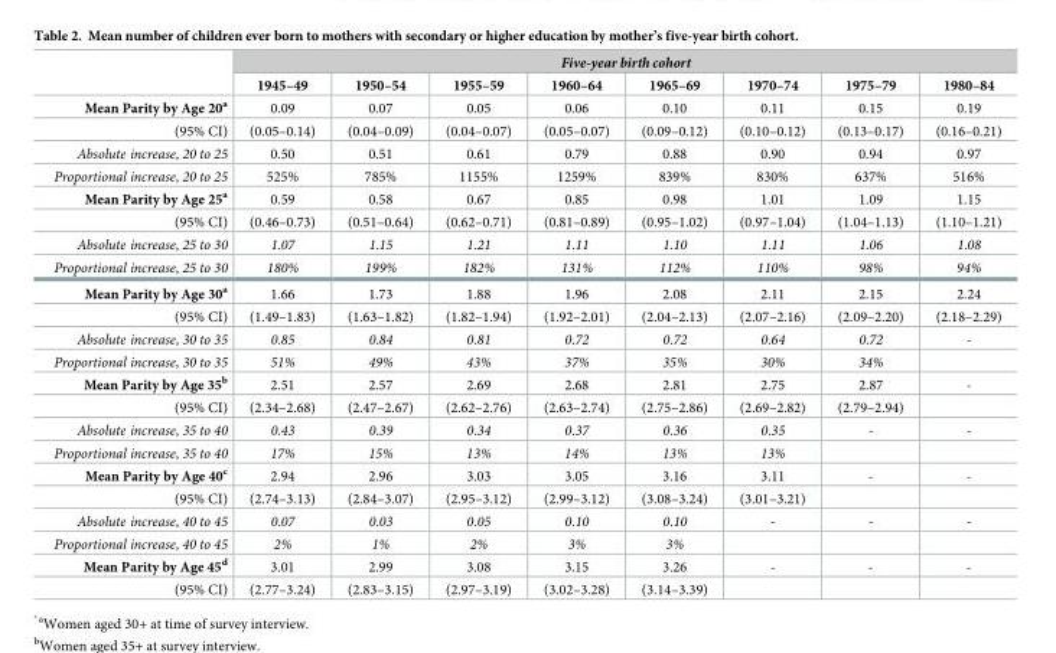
<table><thead><tr><td rowspan="2"></td><td colspan="8">Five-year birth cohort</td></tr><tr><td>1945–49</td><td>1950–54</td><td>1955–59</td><td>1960–64</td><td>1965–69</td><td>1970–74</td><td>1975–79</td><td>1980–84</td></tr></thead><tbody><tr><td>Mean Parity by Age 20<sup>a</sup></td><td>0.09</td><td>0.07</td><td>0.05</td><td>0.06</td><td>0.10</td><td>0.11</td><td>0.15</td><td>0.19</td></tr><tr><td>(95% CI)</td><td>(0.05–0.14)</td><td>(0.04–0.09)</td><td>(0.04–0.07)</td><td>(0.05–0.07)</td><td>(0.09–0.12)</td><td>(0.10–0.12)</td><td>(0.13–0.17)</td><td>(0.16–0.21)</td></tr><tr><td>Absolute increase, 20 to 25</td><td>0.50</td><td>0.51</td><td>0.61</td><td>0.79</td><td>0.88</td><td>0.90</td><td>0.94</td><td>0.97</td></tr><tr><td>Proportional increase, 20 to 25</td><td>525%</td><td>785%</td><td>1155%</td><td>1259%</td><td>839%</td><td>830%</td><td>637%</td><td>516%</td></tr><tr><td>Mean Parity by Age 25<sup>a</sup></td><td>0.59</td><td>0.58</td><td>0.67</td><td>0.85</td><td>0.98</td><td>1.01</td><td>1.09</td><td>1.15</td></tr><tr><td>(95% CI)</td><td>(0.46–0.73)</td><td>(0.51–0.64)</td><td>(0.62–0.71)</td><td>(0.81–0.89)</td><td>(0.95–1.02)</td><td>(0.97–1.04)</td><td>(1.04–1.13)</td><td>(1.10–1.21)</td></tr><tr><td>Absolute increase, 25 to 30</td><td>1.07</td><td>1.15</td><td>1.21</td><td>1.11</td><td>1.10</td><td>1.11</td><td>1.06</td><td>1.08</td></tr><tr><td>Proportional increase, 25 to 30</td><td>180%</td><td>199%</td><td>182%</td><td>131%</td><td>112%</td><td>110%</td><td>98%</td><td>94%</td></tr><tr><td>Mean Parity by Age 30<sup>a</sup></td><td>1.66</td><td>1.73</td><td>1.88</td><td>1.96</td><td>2.08</td><td>2.11</td><td>2.15</td><td>2.24</td></tr><tr><td>(95% CI)</td><td>(1.49–1.83)</td><td>(1.63–1.82)</td><td>(1.82–1.94)</td><td>(1.92–2.01)</td><td>(2.04–2.13)</td><td>(2.07–2.16)</td><td>(2.09–2.20)</td><td>(2.18–2.29)</td></tr><tr><td>Absolute increase, 30 to 35</td><td>0.85</td><td>0.84</td><td>0.81</td><td>0.72</td><td>0.72</td><td>0.64</td><td>0.72</td><td>-</td></tr><tr><td>Proportional increase, 30 to 35</td><td>51%</td><td>49%</td><td>43%</td><td>37%</td><td>35%</td><td>30%</td><td>34%</td><td></td></tr><tr><td>Mean Parity by Age 35<sup>b</sup></td><td>2.51</td><td>2.57</td><td>2.69</td><td>2.68</td><td>2.81</td><td>2.75</td><td>2.87</td><td>-</td></tr><tr><td>(95% CI)</td><td>(2.34–2.68)</td><td>(2.47–2.67)</td><td>(2.62–2.76)</td><td>(2.63–2.74)</td><td>(2.75–2.86)</td><td>(2.69–2.82)</td><td>(2.79–2.94)</td><td></td></tr><tr><td>Absolute increase, 35 to 40</td><td>0.43</td><td>0.39</td><td>0.34</td><td>0.37</td><td>0.36</td><td>0.35</td><td>-</td><td>-</td></tr><tr><td>Proportional increase, 35 to 40</td><td>17%</td><td>15%</td><td>13%</td><td>14%</td><td>13%</td><td>13%</td><td></td><td></td></tr><tr><td>Mean Parity by Age 40<sup>c</sup></td><td>2.94</td><td>2.96</td><td>3.03</td><td>3.05</td><td>3.16</td><td>3.11</td><td>-</td><td>-</td></tr><tr><td>(95% CI)</td><td>(2.74–3.13)</td><td>(2.84–3.07)</td><td>(2.95–3.12)</td><td>(2.99–3.12)</td><td>(3.08–3.24)</td><td>(3.01–3.21)</td><td></td><td></td></tr><tr><td>Absolute increase, 40 to 45</td><td>0.07</td><td>0.03</td><td>0.05</td><td>0.10</td><td>0.10</td><td>-</td><td>-</td><td>-</td></tr><tr><td>Proportional increase, 40 to 45</td><td>2%</td><td>1%</td><td>2%</td><td>3%</td><td>3%</td><td></td><td></td><td></td></tr><tr><td>Mean Parity by Age 45<sup>d</sup></td><td>3.01</td><td>2.99</td><td>3.08</td><td>3.15</td><td>3.26</td><td>-</td><td>-</td><td>-</td></tr><tr><td>(95% CI)</td><td>(2.77–3.24)</td><td>(2.83–3.15)</td><td>(2.97–3.19)</td><td>(3.02–3.28)</td><td>(3.14–3.39)</td><td></td><td></td><td></td></tr></tbody></table>